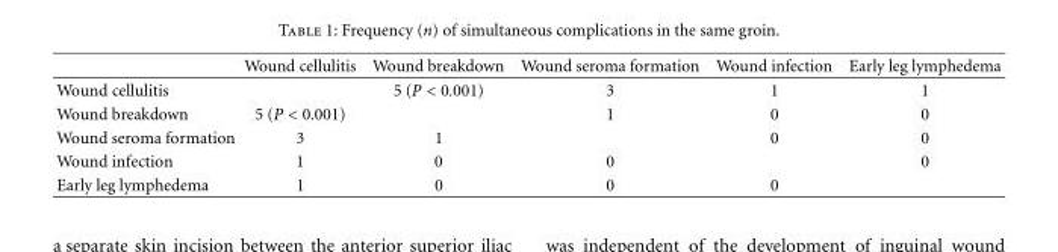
<table><thead><tr><td></td><td>Wound cellulitis</td><td>Wound breakdown</td><td>Wound seroma formation</td><td>Wound infection</td><td>Early leg lymphedema</td></tr></thead><tbody><tr><td>Wound cellulitis</td><td></td><td>5 (P &lt; 0.001)</td><td>3</td><td>1</td><td>1</td></tr><tr><td>Wound breakdown</td><td>5 (P &lt; 0.001)</td><td></td><td>1</td><td>0</td><td>0</td></tr><tr><td>Wound seroma formation</td><td>3</td><td>1</td><td></td><td>0</td><td>0</td></tr><tr><td>Wound infection</td><td>1</td><td>0</td><td>0</td><td></td><td>0</td></tr><tr><td>Early leg lymphedema</td><td>1</td><td>0</td><td>0</td><td>0</td><td></td></tr></tbody></table>